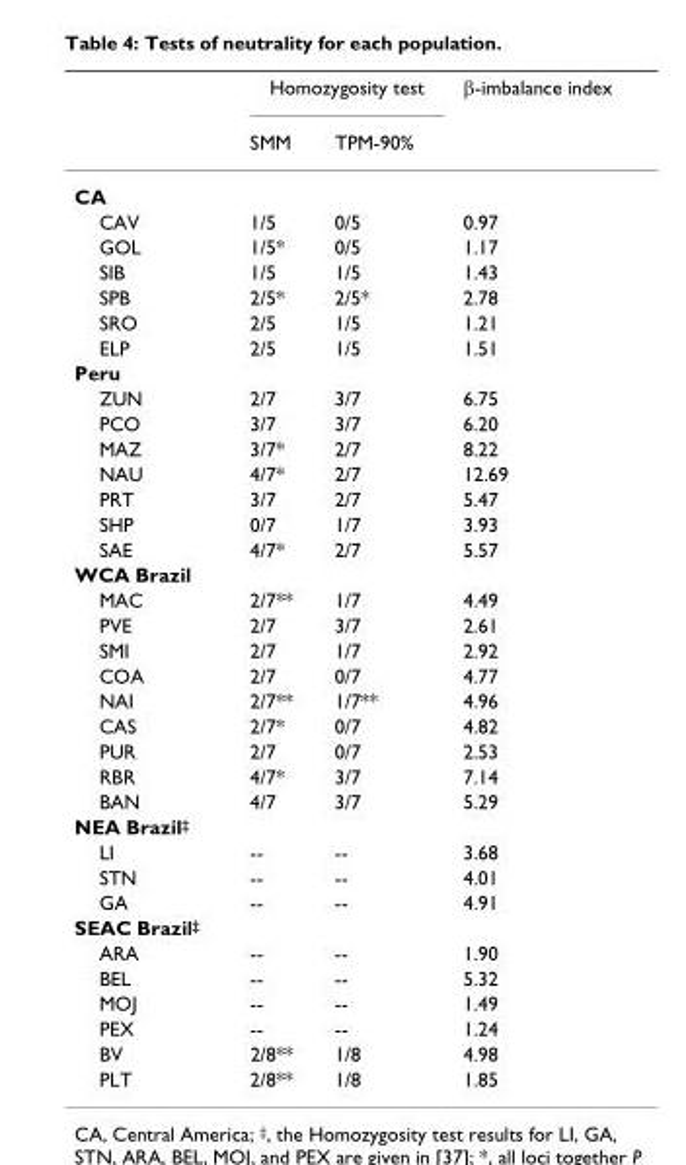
<table><thead><tr><td rowspan="2"></td><td colspan="2">Homozygosity test</td><td rowspan="2">β-imbalance index</td></tr><tr><td>SMM</td><td>TPM-90%</td></tr></thead><tbody><tr><td colspan="4">CA</td></tr><tr><td>CAV</td><td>1/5</td><td>0/5</td><td>0.97</td></tr><tr><td>GOL</td><td>1/5*</td><td>0/5</td><td>1.17</td></tr><tr><td>SIB</td><td>1/5</td><td>1/5</td><td>1.43</td></tr><tr><td>SPB</td><td>2/5*</td><td>2/5*</td><td>2.78</td></tr><tr><td>SRO</td><td>2/5</td><td>1/5</td><td>1.21</td></tr><tr><td>ELP</td><td>2/5</td><td>1/5</td><td>1.51</td></tr><tr><td colspan="4">Peru</td></tr><tr><td>ZUN</td><td>2/7</td><td>3/7</td><td>6.75</td></tr><tr><td>PCO</td><td>3/7</td><td>3/7</td><td>6.20</td></tr><tr><td>MAZ</td><td>3/7*</td><td>2/7</td><td>8.22</td></tr><tr><td>NAU</td><td>4/7*</td><td>2/7</td><td>12.69</td></tr><tr><td>PRT</td><td>3/7</td><td>2/7</td><td>5.47</td></tr><tr><td>SHP</td><td>0/7</td><td>1/7</td><td>3.93</td></tr><tr><td>SAE</td><td>4/7*</td><td>2/7</td><td>5.57</td></tr><tr><td colspan="4">WCA Brazil</td></tr><tr><td>MAC</td><td>2/7**</td><td>1/7</td><td>4.49</td></tr><tr><td>PVE</td><td>2/7</td><td>3/7</td><td>2.61</td></tr><tr><td>SMI</td><td>2/7</td><td>1/7</td><td>2.92</td></tr><tr><td>COA</td><td>2/7</td><td>0/7</td><td>4.77</td></tr><tr><td>NAI</td><td>2/7**</td><td>1/7**</td><td>4.96</td></tr><tr><td>CAS</td><td>2/7*</td><td>0/7</td><td>4.82</td></tr><tr><td>PUR</td><td>2/7</td><td>0/7</td><td>2.53</td></tr><tr><td>RBR</td><td>4/7*</td><td>3/7</td><td>7.14</td></tr><tr><td>BAN</td><td>4/7</td><td>3/7</td><td>5.29</td></tr><tr><td colspan="4">NEA Brazil<sup>‡</sup></td></tr><tr><td>LI</td><td>--</td><td>--</td><td>3.68</td></tr><tr><td>STN</td><td>--</td><td>--</td><td>4.01</td></tr><tr><td>GA</td><td>--</td><td>--</td><td>4.91</td></tr><tr><td colspan="4">SEAC Brazil<sup>‡</sup></td></tr><tr><td>ARA</td><td>--</td><td>--</td><td>1.90</td></tr><tr><td>BEL</td><td>--</td><td>--</td><td>5.32</td></tr><tr><td>MOJ</td><td>--</td><td>--</td><td>1.49</td></tr><tr><td>PEX</td><td>--</td><td>--</td><td>1.24</td></tr><tr><td>BV</td><td>2/8**</td><td>1/8</td><td>4.98</td></tr><tr><td>PLT</td><td>2/8**</td><td>1/8</td><td>1.85</td></tr></tbody></table>